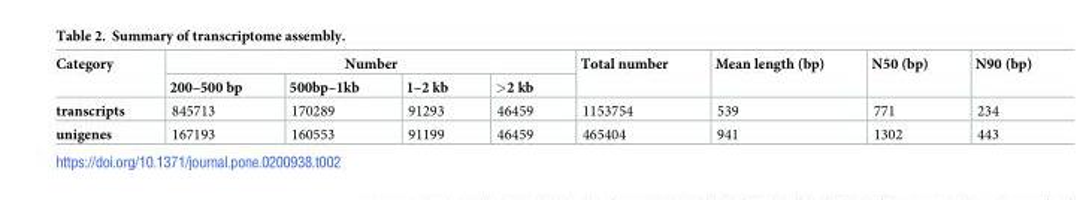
<table><thead><tr><td rowspan="2">Category</td><td colspan="4">Number</td><td rowspan="2">Total number</td><td rowspan="2">Mean length (bp)</td><td rowspan="2">N50 (bp)</td><td rowspan="2">N90 (bp)</td></tr><tr><td>200–500 bp</td><td>500bp–1kb</td><td>1–2 kb</td><td>&gt;2 kb</td></tr></thead><tbody><tr><td>transcripts</td><td>845713</td><td>170289</td><td>91293</td><td>46459</td><td>1153754</td><td>539</td><td>771</td><td>234</td></tr><tr><td>unigenes</td><td>167193</td><td>160553</td><td>91199</td><td>46459</td><td>465404</td><td>941</td><td>1302</td><td>443</td></tr></tbody></table>